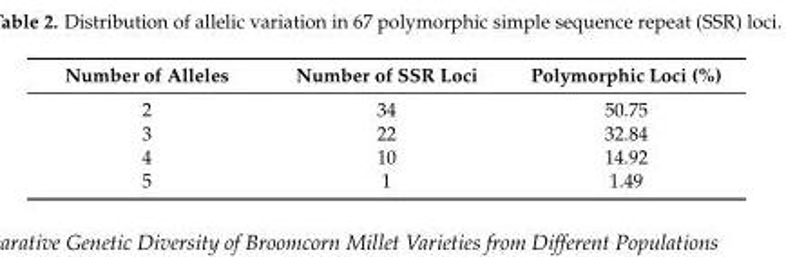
<table><thead><tr><td>Number of Alleles</td><td>Number of SSR Loci</td><td>Polymorphic Loci (%)</td></tr></thead><tbody><tr><td>2</td><td>34</td><td>50.75</td></tr><tr><td>3</td><td>22</td><td>32.84</td></tr><tr><td>4</td><td>10</td><td>14.92</td></tr><tr><td>5</td><td>1</td><td>1.49</td></tr></tbody></table>